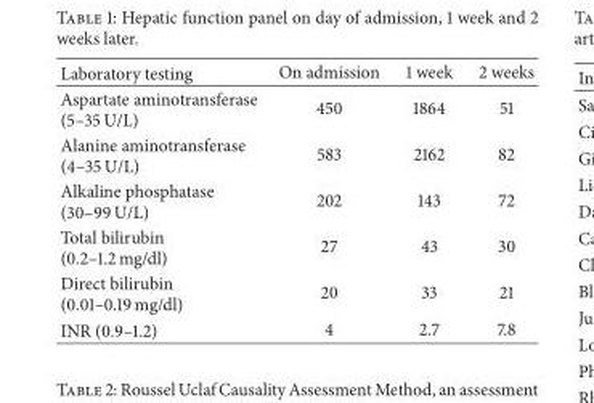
<table><thead><tr><td>Laboratory testing</td><td>On admission</td><td>1 week</td><td>2 weeks</td></tr></thead><tbody><tr><td>Aspartate aminotransferase (5–35 U/L)</td><td>450</td><td>1864</td><td>51</td></tr><tr><td>Alanine aminotransferase (4–35 U/L)</td><td>583</td><td>2162</td><td>82</td></tr><tr><td>Alkaline phosphatase (30–99 U/L)</td><td>202</td><td>143</td><td>72</td></tr><tr><td>Total bilirubin (0.2–1.2 mg/dl)</td><td>27</td><td>43</td><td>30</td></tr><tr><td>Direct bilirubin (0.01–0.19 mg/dl)</td><td>20</td><td>33</td><td>21</td></tr><tr><td>INR (0.9–1.2)</td><td>4</td><td>2.7</td><td>7.8</td></tr></tbody></table>